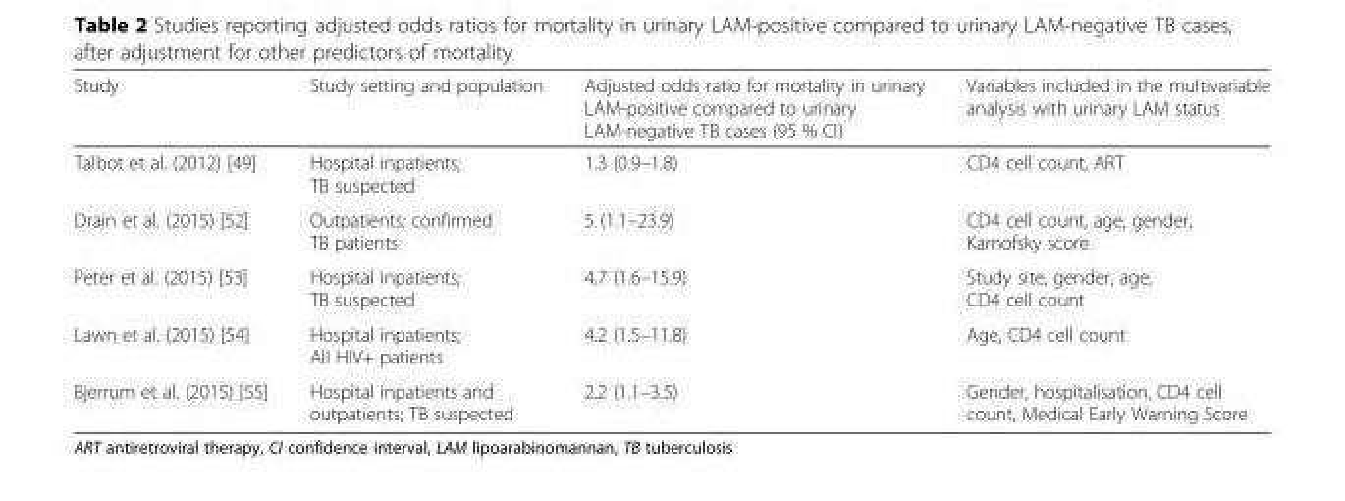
<table><thead><tr><td>Study</td><td>Study setting and population</td><td>Adjusted odds ratio for mortality in urinary LAM-positive compared to urinary LAM-negative TB cases (95 % CI)</td><td>Variables included in the multivariable analysis with urinary LAM status</td></tr></thead><tbody><tr><td>Talbot et al. (2012) [49]</td><td>Hospital inpatients; TB suspected</td><td>1.3 (0.9–1.8)</td><td>CD4 cell count, ART</td></tr><tr><td>Drain et al. (2015) [52]</td><td>Outpatients; confirmed TB patients</td><td>5 (1.1–23.9)</td><td>CD4 cell count, age, gender, Karnofsky score</td></tr><tr><td>Peter et al. (2015) [53]</td><td>Hospital inpatients; TB suspected</td><td>4.7 (1.6–15.9)</td><td>Study site, gender, age, CD4 cell count</td></tr><tr><td>Lawn et al. (2015) [54]</td><td>Hospital inpatients; All HIV+ patients</td><td>4.2 (1.5–11.8)</td><td>Age, CD4 cell count</td></tr><tr><td>Bjerrum et al. (2015) [55]</td><td>Hospital inpatients and outpatients; TB suspected</td><td>2.2 (1.1–3.5)</td><td>Gender, hospitalisation, CD4 cell count, Medical Early Warning Score</td></tr></tbody></table>